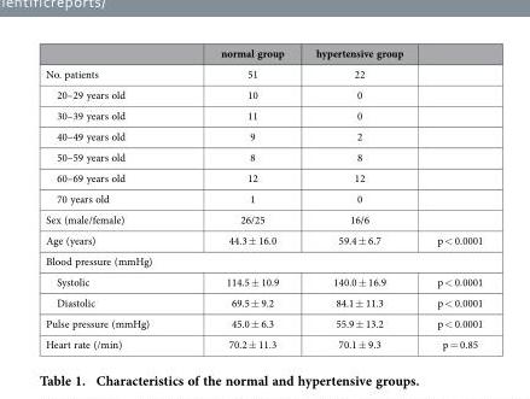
<table><thead><tr><td></td><td>normal group</td><td>hypertensive group</td><td></td></tr></thead><tbody><tr><td>No. patients</td><td>51</td><td>22</td><td></td></tr><tr><td>20–29 years old</td><td>10</td><td>0</td><td></td></tr><tr><td>30–39 years old</td><td>11</td><td>0</td><td></td></tr><tr><td>40–49 years old</td><td>9</td><td>2</td><td></td></tr><tr><td>50–59 years old</td><td>8</td><td>8</td><td></td></tr><tr><td>60–69 years old</td><td>12</td><td>12</td><td></td></tr><tr><td>70 years old</td><td>1</td><td>0</td><td></td></tr><tr><td>Sex (male/female)</td><td>26/25</td><td>16/6</td><td></td></tr><tr><td>Age (years)</td><td>44.3 ± 16.0</td><td>59.4 ± 6.7</td><td>p &lt; 0.0001</td></tr><tr><td colspan="4">Blood pressure (mmHg)</td></tr><tr><td>Systolic</td><td>114.5 ± 10.9</td><td>140.0 ± 16.9</td><td>p &lt; 0.0001</td></tr><tr><td>Diastolic</td><td>69.5 ± 9.2</td><td>84.1 ± 11.3</td><td>p &lt; 0.0001</td></tr><tr><td>Pulse pressure (mmHg)</td><td>45.0 ± 6.3</td><td>55.9 ± 13.2</td><td>p &lt; 0.0001</td></tr><tr><td>Heart rate (/min)</td><td>70.2 ± 11.3</td><td>70.1 ± 9.3</td><td>p = 0.85</td></tr></tbody></table>